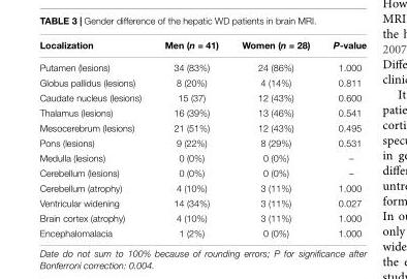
<table><thead><tr><td>Localization</td><td>Men (n = 41)</td><td>Women (n = 28)</td><td>P-value</td></tr></thead><tbody><tr><td>Putamen (lesions)</td><td>34 (83%)</td><td>24 (86%)</td><td>1.000</td></tr><tr><td>Globus pallidus (lesions)</td><td>8 (20%)</td><td>4 (14%)</td><td>0.811</td></tr><tr><td>Caudate nucleus (lesions)</td><td>15 (37)</td><td>12 (43%)</td><td>0.600</td></tr><tr><td>Thalamus (lesions)</td><td>16 (39%)</td><td>13 (46%)</td><td>0.541</td></tr><tr><td>Mesocerebrum (lesions)</td><td>21 (51%)</td><td>12 (43%)</td><td>0.495</td></tr><tr><td>Pons (lesions)</td><td>9 (22%)</td><td>8 (29%)</td><td>0.531</td></tr><tr><td>Medulla (lesions)</td><td>0 (0%)</td><td>0 (0%)</td><td>–</td></tr><tr><td>Cerebellum (lesions)</td><td>0 (0%)</td><td>0 (0%)</td><td>–</td></tr><tr><td>Cerebellum (atrophy)</td><td>4 (10%)</td><td>3 (11%)</td><td>1.000</td></tr><tr><td>Ventricular widening</td><td>14 (34%)</td><td>3 (11%)</td><td>0.027</td></tr><tr><td>Brain cortex (atrophy)</td><td>4 (10%)</td><td>3 (11%)</td><td>1.000</td></tr><tr><td>Encephalomalacia</td><td>1 (2%)</td><td>0 (0%)</td><td>1.000</td></tr></tbody></table>